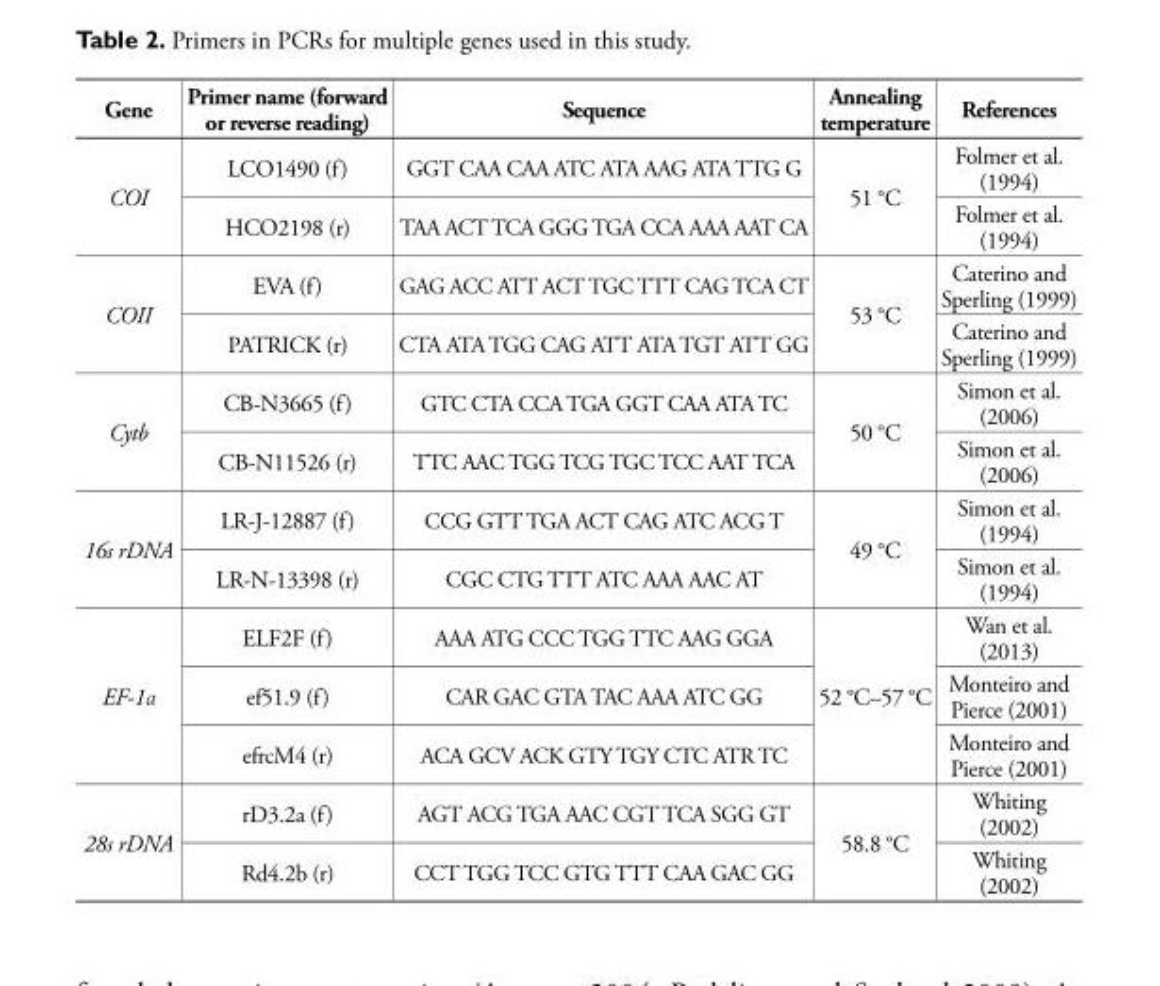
<table><thead><tr><td>Gene</td><td>Primer name (forward or reverse reading)</td><td>Sequence</td><td>Annealing temperature</td><td>References</td></tr></thead><tbody><tr><td rowspan="2">COI</td><td>LCO1490 (f)</td><td>GGT CAA CAA ATC ATA AAG ATA TTG G</td><td rowspan="2">51 °C</td><td>Folmer et al. (1994)</td></tr><tr><td>HCO2198 (r)</td><td>TAA ACT TCA GGG TGA CCA AAA AAT CA</td><td>Folmer et al. (1994)</td></tr><tr><td rowspan="2">COII</td><td>EVA (f)</td><td>GAG ACC ATT ACT TGC TTT CAG TCA CT</td><td rowspan="2">53 °C</td><td>Caterino and Sperling (1999)</td></tr><tr><td>PATRICK (r)</td><td>CTA ATA TGG CAG ATT ATA TGT ATT GG</td><td>Caterino and Sperling (1999)</td></tr><tr><td rowspan="2">Cytb</td><td>CB-N3665 (f)</td><td>GTC CTA CCA TGA GGT CAA ATA TC</td><td rowspan="2">50 °C</td><td>Simon et al. (2006)</td></tr><tr><td>CB-N11526 (r)</td><td>TTC AAC TGG TCG TGC TCC AAT TCA</td><td>Simon et al. (2006)</td></tr><tr><td rowspan="2">16s rDNA</td><td>LR-J-12887 (f)</td><td>CCG GTT TGA ACT CAG ATC ACG T</td><td rowspan="2">49 °C</td><td>Simon et al. (1994)</td></tr><tr><td>LR-N-13398 (r)</td><td>CGC CTG TTT ATC AAA AAC AT</td><td>Simon et al. (1994)</td></tr><tr><td rowspan="3">EF-1α</td><td>ELF2F (f)</td><td>AAA ATG CCC TGG TTC AAG GGA</td><td rowspan="3">52 °C–57 °C</td><td>Wan et al. (2013)</td></tr><tr><td>ef51.9 (f)</td><td>CAR GAC GTA TAC AAA ATC GG</td><td>Monteiro and Pierce (2001)</td></tr><tr><td>efrcM4 (r)</td><td>ACA GCV ACK GTY TGY CTC ATR TC</td><td>Monteiro and Pierce (2001)</td></tr><tr><td rowspan="2">28s rDNA</td><td>rD3.2a (f)</td><td>AGT ACG TGA AAC CGT TCA SGG GT</td><td rowspan="2">58.8 °C</td><td>Whiting (2002)</td></tr><tr><td>Rd4.2b (r)</td><td>CCT TGG TCC GTG TTT CAA GAC GG</td><td>Whiting (2002)</td></tr></tbody></table>